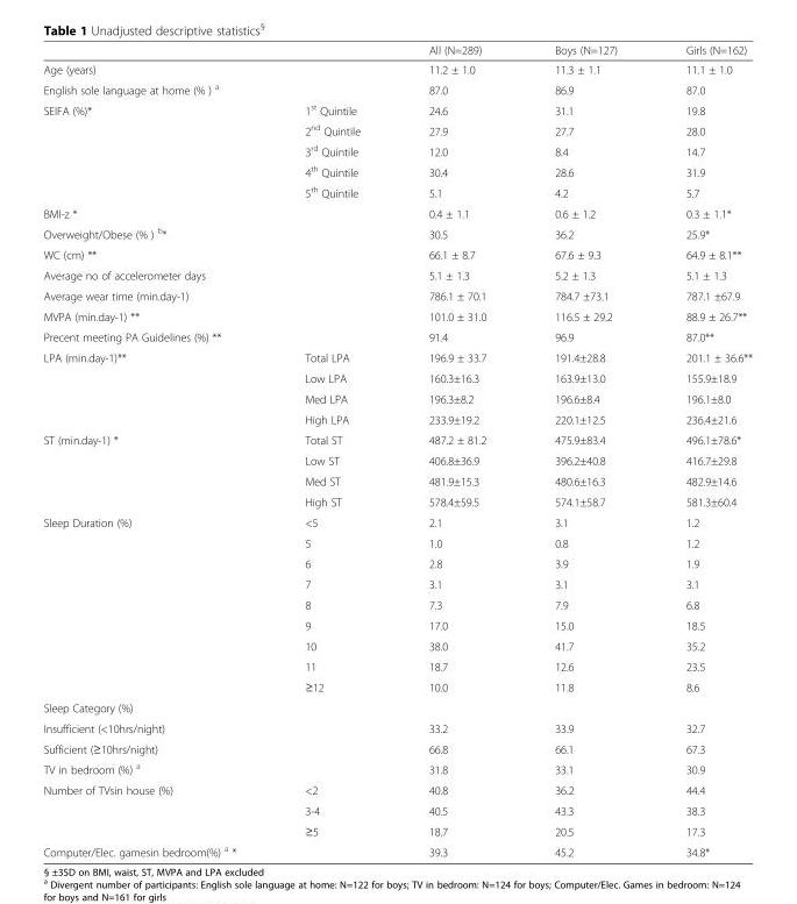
<table><thead><tr><td></td><td></td><td>All (N=289)</td><td>Boys (N=127)</td><td>Girls (N=162)</td></tr></thead><tbody><tr><td>Age (years)</td><td></td><td>11.2 ± 1.0</td><td>11.3 ± 1.1</td><td>11.1 ± 1.0</td></tr><tr><td>English sole language at home (% ) <sup>a</sup></td><td></td><td>87.0</td><td>86.9</td><td>87.0</td></tr><tr><td rowspan="5">SEIFA (%)*</td><td>1<sup>st</sup> Quintile</td><td>24.6</td><td>31.1</td><td>19.8</td></tr><tr><td>2<sup>nd</sup> Quintile</td><td>27.9</td><td>27.7</td><td>28.0</td></tr><tr><td>3<sup>rd</sup> Quintile</td><td>12.0</td><td>8.4</td><td>14.7</td></tr><tr><td>4<sup>th</sup> Quintile</td><td>30.4</td><td>28.6</td><td>31.9</td></tr><tr><td>5<sup>th</sup> Quintile</td><td>5.1</td><td>4.2</td><td>5.7</td></tr><tr><td colspan="2">BMI-z *</td><td>0.4 ± 1.1</td><td>0.6 ± 1.2</td><td>0.3 ± 1.1*</td></tr><tr><td colspan="2">Overweight/Obese (% ) <sup>b</sup>*</td><td>30.5</td><td>36.2</td><td>25.9*</td></tr><tr><td colspan="2">WC (cm) **</td><td>66.1 ± 8.7</td><td>67.6 ± 9.3</td><td>64.9 ± 8.1**</td></tr><tr><td colspan="2">Average no of accelerometer days</td><td>5.1 ± 1.3</td><td>5.2 ± 1.3</td><td>5.1 ± 1.3</td></tr><tr><td colspan="2">Average wear time (min.day-1)</td><td>786.1 ± 70.1</td><td>784.7 ±73.1</td><td>787.1 ±67.9</td></tr><tr><td colspan="2">MVPA (min.day-1) **</td><td>101.0 ± 31.0</td><td>116.5 ± 29.2</td><td>88.9 ± 26.7**</td></tr><tr><td colspan="2">Precent meeting PA Guidelines (%) **</td><td>91.4</td><td>96.9</td><td>87.0**</td></tr><tr><td rowspan="4">LPA (min.day-1)**</td><td>Total LPA</td><td>196.9 ± 33.7</td><td>191.4±28.8</td><td>201.1 ± 36.6**</td></tr><tr><td>Low LPA</td><td>160.3±16.3</td><td>163.9±13.0</td><td>155.9±18.9</td></tr><tr><td>Med LPA</td><td>196.3±8.2</td><td>196.6±8.4</td><td>196.1±8.0</td></tr><tr><td>High LPA</td><td>233.9±19.2</td><td>220.1±12.5</td><td>236.4±21.6</td></tr><tr><td rowspan="4">ST (min.day-1) *</td><td>Total ST</td><td>487.2 ± 81.2</td><td>475.9±83.4</td><td>496.1±78.6*</td></tr><tr><td>Low ST</td><td>406.8±36.9</td><td>396.2±40.8</td><td>416.7±29.8</td></tr><tr><td>Med ST</td><td>481.9±15.3</td><td>480.6±16.3</td><td>482.9±14.6</td></tr><tr><td>High ST</td><td>578.4±59.5</td><td>574.1±58.7</td><td>581.3±60.4</td></tr><tr><td rowspan="9">Sleep Duration (%)</td><td>&lt;5</td><td>2.1</td><td>3.1</td><td>1.2</td></tr><tr><td>5</td><td>1.0</td><td>0.8</td><td>1.2</td></tr><tr><td>6</td><td>2.8</td><td>3.9</td><td>1.9</td></tr><tr><td>7</td><td>3.1</td><td>3.1</td><td>3.1</td></tr><tr><td>8</td><td>7.3</td><td>7.9</td><td>6.8</td></tr><tr><td>9</td><td>17.0</td><td>15.0</td><td>18.5</td></tr><tr><td>10</td><td>38.0</td><td>41.7</td><td>35.2</td></tr><tr><td>11</td><td>18.7</td><td>12.6</td><td>23.5</td></tr><tr><td>≥12</td><td>10.0</td><td>11.8</td><td>8.6</td></tr><tr><td colspan="5">Sleep Category (%)</td></tr><tr><td colspan="2">Insufficient (&lt;10hrs/night)</td><td>33.2</td><td>33.9</td><td>32.7</td></tr><tr><td colspan="2">Sufficient (≥10hrs/night)</td><td>66.8</td><td>66.1</td><td>67.3</td></tr><tr><td colspan="2">TV in bedroom (%) <sup>a</sup></td><td>31.8</td><td>33.1</td><td>30.9</td></tr><tr><td rowspan="3">Number of TVsin house (%)</td><td>&lt;2</td><td>40.8</td><td>36.2</td><td>44.4</td></tr><tr><td>3-4</td><td>40.5</td><td>43.3</td><td>38.3</td></tr><tr><td>≥5</td><td>18.7</td><td>20.5</td><td>17.3</td></tr><tr><td>Computer/Elec. gamesin bedroom(%) <sup>a</sup> *</td><td></td><td>39.3</td><td>45.2</td><td>34.8*</td></tr></tbody></table>